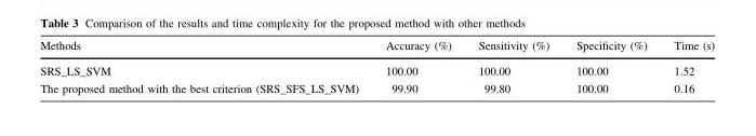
<table><thead><tr><td>Methods</td><td>Accuracy (%)</td><td>Sensitivity (%)</td><td>Specificity (%)</td><td>Time (s)</td></tr></thead><tbody><tr><td>SRS_LS_SVM</td><td>100.00</td><td>100.00</td><td>100.00</td><td>1.52</td></tr><tr><td>The proposed method with the best criterion (SRS_SFS_LS_SVM)</td><td>99.90</td><td>99.80</td><td>100.00</td><td>0.16</td></tr></tbody></table>